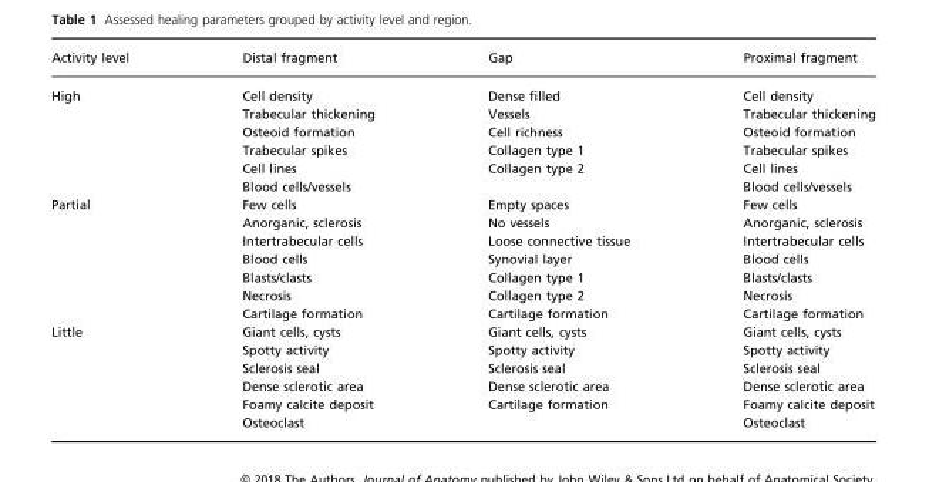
<table><thead><tr><td>Activity level</td><td>Distal fragment</td><td>Gap</td><td>Proximal fragment</td></tr></thead><tbody><tr><td rowspan="6">High</td><td>Cell density</td><td>Dense filled</td><td>Cell density</td></tr><tr><td>Trabecular thickening</td><td>Vessels</td><td>Trabecular thickening</td></tr><tr><td>Osteoid formation</td><td>Cell richness</td><td>Osteoid formation</td></tr><tr><td>Trabecular spikes</td><td>Collagen type 1</td><td>Trabecular spikes</td></tr><tr><td>Cell lines</td><td>Collagen type 2</td><td>Cell lines</td></tr><tr><td>Blood cells/vessels</td><td></td><td>Blood cells/vessels</td></tr><tr><td rowspan="7">Partial</td><td>Few cells</td><td>Empty spaces</td><td>Few cells</td></tr><tr><td>Anorganic, sclerosis</td><td>No vessels</td><td>Anorganic, sclerosis</td></tr><tr><td>Intertrabecular cells</td><td>Loose connective tissue</td><td>Intertrabecular cells</td></tr><tr><td>Blood cells</td><td>Synovial layer</td><td>Blood cells</td></tr><tr><td>Blasts/clasts</td><td>Collagen type 1</td><td>Blasts/clasts</td></tr><tr><td>Necrosis</td><td>Collagen type 2</td><td>Necrosis</td></tr><tr><td>Cartilage formation</td><td>Cartilage formation</td><td>Cartilage formation</td></tr><tr><td rowspan="6">Little</td><td>Giant cells, cysts</td><td>Giant cells, cysts</td><td>Giant cells, cysts</td></tr><tr><td>Spotty activity</td><td>Spotty activity</td><td>Spotty activity</td></tr><tr><td>Sclerosis seal</td><td>Sclerosis seal</td><td>Sclerosis seal</td></tr><tr><td>Dense sclerotic area</td><td>Dense sclerotic area</td><td>Dense sclerotic area</td></tr><tr><td>Foamy calcite deposit</td><td>Cartilage formation</td><td>Foamy calcite deposit</td></tr><tr><td>Osteoclast</td><td></td><td>Osteoclast</td></tr></tbody></table>